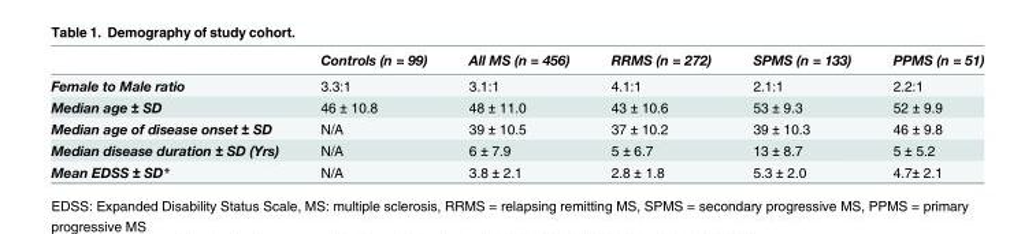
<table><thead><tr><td></td><td>Controls (n = 99)</td><td>All MS (n = 456)</td><td>RRMS (n = 272)</td><td>SPMS (n = 133)</td><td>PPMS (n = 51)</td></tr></thead><tbody><tr><td>Female to Male ratio</td><td>3.3:1</td><td>3.1:1</td><td>4.1:1</td><td>2.1:1</td><td>2.2:1</td></tr><tr><td>Median age ± SD</td><td>46 ± 10.8</td><td>48 ± 11.0</td><td>43 ± 10.6</td><td>53 ± 9.3</td><td>52 ± 9.9</td></tr><tr><td>Median age of disease onset ± SD</td><td>N/A</td><td>39 ± 10.5</td><td>37 ± 10.2</td><td>39 ± 10.3</td><td>46 ± 9.8</td></tr><tr><td>Median disease duration ± SD (Yrs)</td><td>N/A</td><td>6 ± 7.9</td><td>5 ± 6.7</td><td>13 ± 8.7</td><td>5 ± 5.2</td></tr><tr><td>Mean EDSS ± SD*</td><td>N/A</td><td>3.8 ± 2.1</td><td>2.8 ± 1.8</td><td>5.3 ± 2.0</td><td>4.7± 2.1</td></tr></tbody></table>